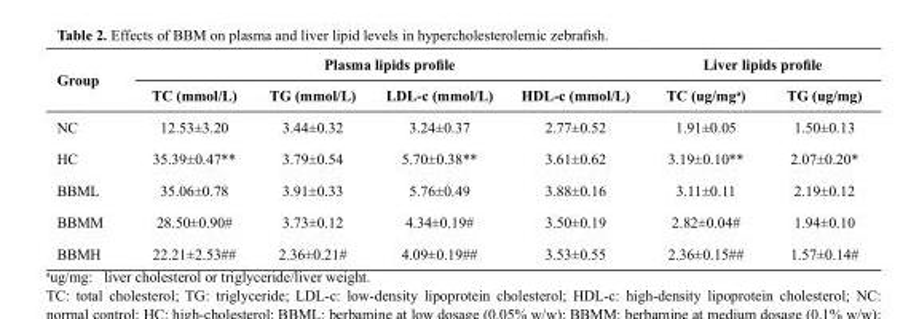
<table><thead><tr><td rowspan="2">Group</td><td colspan="4">Plasma lipids profile</td><td colspan="2">Liver lipids profile</td></tr><tr><td>TC (mmol/L)</td><td>TG (mmol/L)</td><td>LDL-c (mmol/L)</td><td>HDL-c (mmol/L)</td><td>TC (ug/mga)</td><td>TG (ug/mg)</td></tr></thead><tbody><tr><td>NC</td><td>12.53±3.20</td><td>3.44±0.32</td><td>3.24±0.37</td><td>2.77±0.52</td><td>1.91±0.05</td><td>1.50±0.13</td></tr><tr><td>HC</td><td>35.39±0.47**</td><td>3.79±0.54</td><td>5.70±0.38**</td><td>3.61±0.62</td><td>3.19±0.10**</td><td>2.07±0.20*</td></tr><tr><td>BBML</td><td>35.06±0.78</td><td>3.91±0.33</td><td>5.76±0.49</td><td>3.88±0.16</td><td>3.11±0.11</td><td>2.19±0.12</td></tr><tr><td>BBMM</td><td>28.50±0.90#</td><td>3.73±0.12</td><td>4.34±0.19#</td><td>3.50±0.19</td><td>2.82±0.04#</td><td>1.94±0.10</td></tr><tr><td>BBMH</td><td>22.21±2.53##</td><td>2.36±0.21#</td><td>4.09±0.19##</td><td>3.53±0.55</td><td>2.36±0.15##</td><td>1.57±0.14#</td></tr></tbody></table>